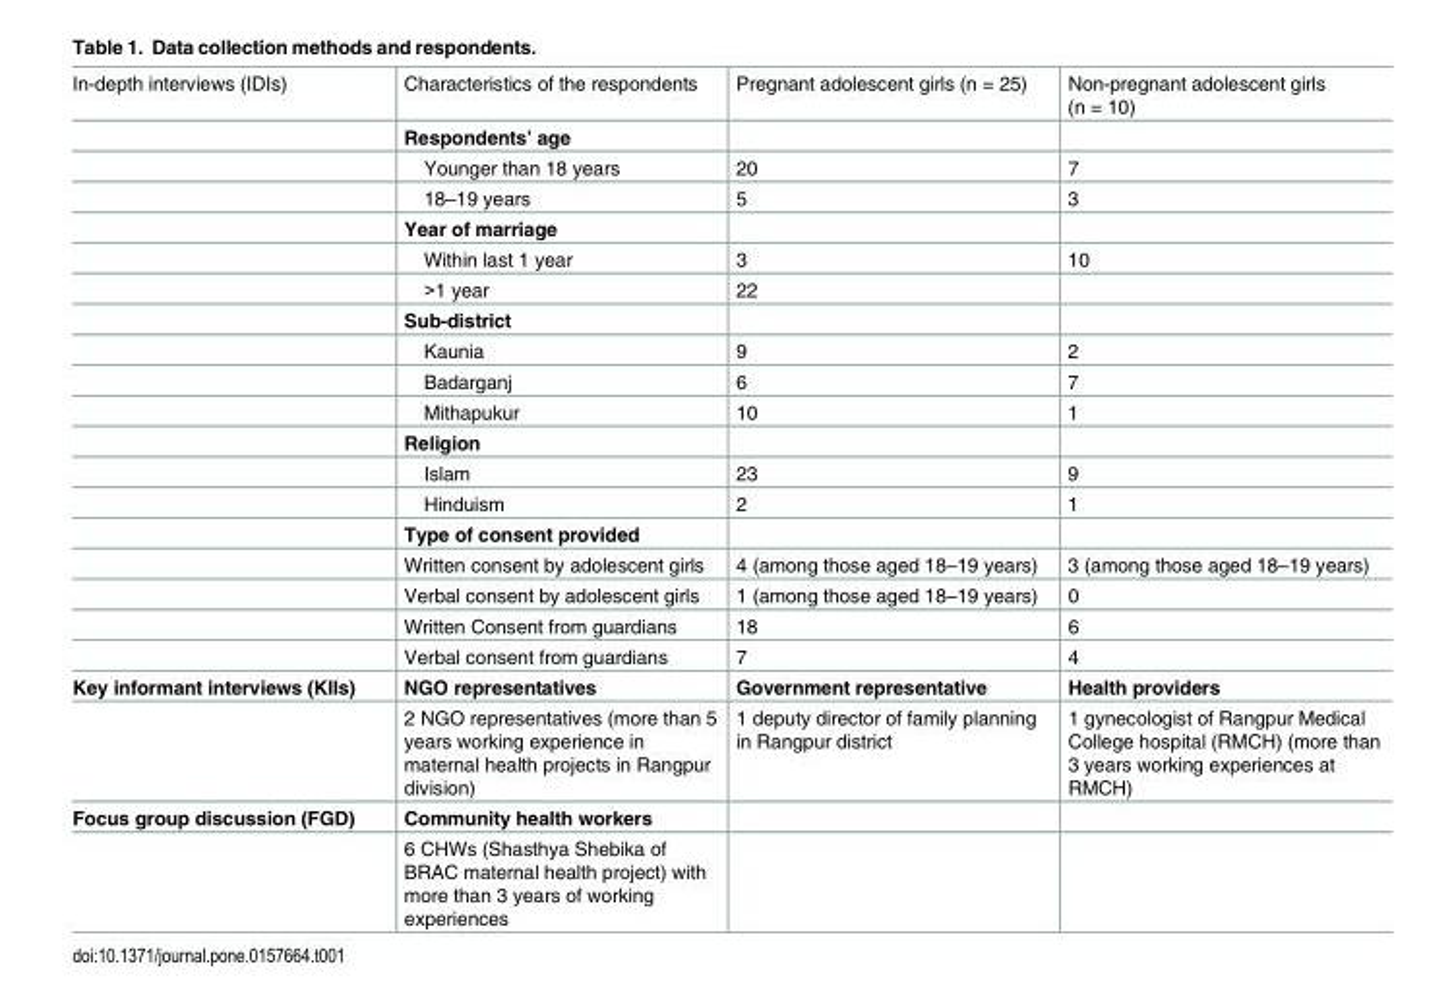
<table><tbody><tr><td rowspan="19">In-depth interviews (IDIs)</td><td>Characteristics of the respondents</td><td>Pregnant adolescent girls (n = 25)</td><td>Non-pregnant adolescent girls (n = 10)</td></tr><tr><td>Respondents’ age</td><td></td><td></td></tr><tr><td>Younger than 18 years</td><td>20</td><td>7</td></tr><tr><td>18–19 years</td><td>5</td><td>3</td></tr><tr><td>Year of marriage</td><td></td><td></td></tr><tr><td>Within last 1 year</td><td>3</td><td>10</td></tr><tr><td>&gt;1 year</td><td>22</td><td></td></tr><tr><td>Sub-district</td><td></td><td></td></tr><tr><td>Kaunia</td><td>9</td><td>2</td></tr><tr><td>Badarganj</td><td>6</td><td>7</td></tr><tr><td>Mithapukur</td><td>10</td><td>1</td></tr><tr><td>Religion</td><td></td><td></td></tr><tr><td>Islam</td><td>23</td><td>9</td></tr><tr><td>Hinduism</td><td>2</td><td>1</td></tr><tr><td>Type of consent provided</td><td></td><td></td></tr><tr><td>Written consent by adolescent girls</td><td>4 (among those aged 18–19 years)</td><td>3 (among those aged 18–19 years)</td></tr><tr><td>Verbal consent by adolescent girls</td><td>1 (among those aged 18–19 years)</td><td>0</td></tr><tr><td>Written Consent from guardians</td><td>18</td><td>6</td></tr><tr><td>Verbal consent from guardians</td><td>7</td><td>4</td></tr><tr><td rowspan="2">Key informant interviews (KIIs)</td><td>NGO representatives</td><td>Government representative</td><td>Health providers</td></tr><tr><td>2 NGO representatives (more than 5 years working experience in maternal health projects in Rangpur division)</td><td>1 deputy director of family planning in Rangpur district</td><td>1 gynecologist of Rangpur Medical College hospital (RMCH) (more than 3 years working experiences at RMCH)</td></tr><tr><td rowspan="2">Focus group discussion (FGD)</td><td>Community health workers</td><td></td><td></td></tr><tr><td>6 CHWs (Shasthya Shebika of BRAC maternal health project) with more than 3 years of working experiences</td><td></td><td></td></tr></tbody></table>